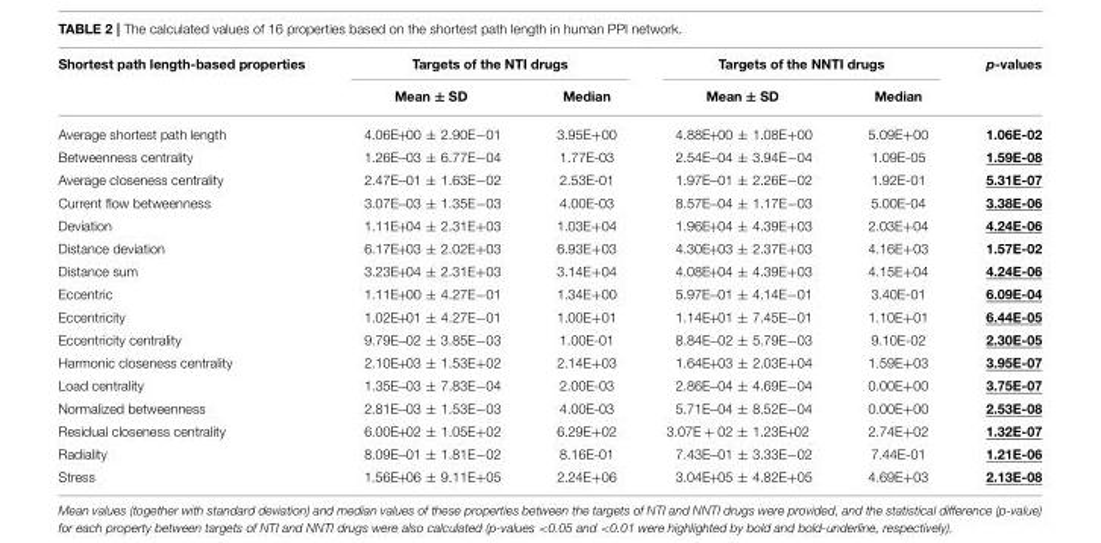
<table><thead><tr><td rowspan="2">Shortest path length-based properties</td><td colspan="2">Targets of the NTI drugs</td><td colspan="2">Targets of the NNTI drugs</td><td rowspan="2">p-values</td></tr><tr><td>Mean ± SD</td><td>Median</td><td>Mean ± SD</td><td>Median</td></tr></thead><tbody><tr><td>Average shortest path length</td><td>4.06E+00 ± 2.90E−01</td><td>3.95E+00</td><td>4.88E+00 ± 1.08E+00</td><td>5.09E+00</td><td>1.06E-02</td></tr><tr><td>Betweenness centrality</td><td>1.26E−03 ± 6.77E−04</td><td>1.77E-03</td><td>2.54E−04 ± 3.94E−04</td><td>1.09E-05</td><td>1.59E-08</td></tr><tr><td>Average closeness centrality</td><td>2.47E−01 ± 1.63E−02</td><td>2.53E-01</td><td>1.97E−01 ± 2.26E−02</td><td>1.92E-01</td><td>5.31E-07</td></tr><tr><td>Current flow betweenness</td><td>3.07E−03 ± 1.35E−03</td><td>4.00E-03</td><td>8.57E−04 ± 1.17E−03</td><td>5.00E-04</td><td>3.38E-06</td></tr><tr><td>Deviation</td><td>1.11E+04 ± 2.31E+03</td><td>1.03E+04</td><td>1.96E+04 ± 4.39E+03</td><td>2.03E+04</td><td>4.24E-06</td></tr><tr><td>Distance deviation</td><td>6.17E+03 ± 2.02E+03</td><td>6.93E+03</td><td>4.30E+03 ± 2.37E+03</td><td>4.16E+03</td><td>1.57E-02</td></tr><tr><td>Distance sum</td><td>3.23E+04 ± 2.31E+03</td><td>3.14E+04</td><td>4.08E+04 ± 4.39E+03</td><td>4.15E+04</td><td>4.24E-06</td></tr><tr><td>Eccentric</td><td>1.11E+00 ± 4.27E−01</td><td>1.34E+00</td><td>5.97E−01 ± 4.14E−01</td><td>3.40E-01</td><td>6.09E-04</td></tr><tr><td>Eccentricity</td><td>1.02E+01 ± 4.27E−01</td><td>1.00E+01</td><td>1.14E+01 ± 7.45E−01</td><td>1.10E+01</td><td>6.44E-05</td></tr><tr><td>Eccentricity centrality</td><td>9.79E−02 ± 3.85E−03</td><td>1.00E-01</td><td>8.84E−02 ± 5.79E−03</td><td>9.10E-02</td><td>2.30E-05</td></tr><tr><td>Harmonic closeness centrality</td><td>2.10E+03 ± 1.53E+02</td><td>2.14E+03</td><td>1.64E+03 ± 2.03E+04</td><td>1.59E+03</td><td>3.95E-07</td></tr><tr><td>Load centrality</td><td>1.35E−03 ± 7.83E−04</td><td>2.00E-03</td><td>2.86E−04 ± 4.69E−04</td><td>0.00E+00</td><td>3.75E-07</td></tr><tr><td>Normalized betweenness</td><td>2.81E−03 ± 1.53E−03</td><td>4.00E-03</td><td>5.71E−04 ± 8.52E−04</td><td>0.00E+00</td><td>2.53E-08</td></tr><tr><td>Residual closeness centrality</td><td>6.00E+02 ± 1.05E+02</td><td>6.29E+02</td><td>3.07E + 02 ± 1.23E+02</td><td>2.74E+02</td><td>1.32E-07</td></tr><tr><td>Radiality</td><td>8.09E−01 ± 1.81E−02</td><td>8.16E-01</td><td>7.43E−01 ± 3.33E−02</td><td>7.44E-01</td><td>1.21E-06</td></tr><tr><td>Stress</td><td>1.56E+06 ± 9.11E+05</td><td>2.24E+06</td><td>3.04E+05 ± 4.82E+05</td><td>4.69E+03</td><td>2.13E-08</td></tr></tbody></table>